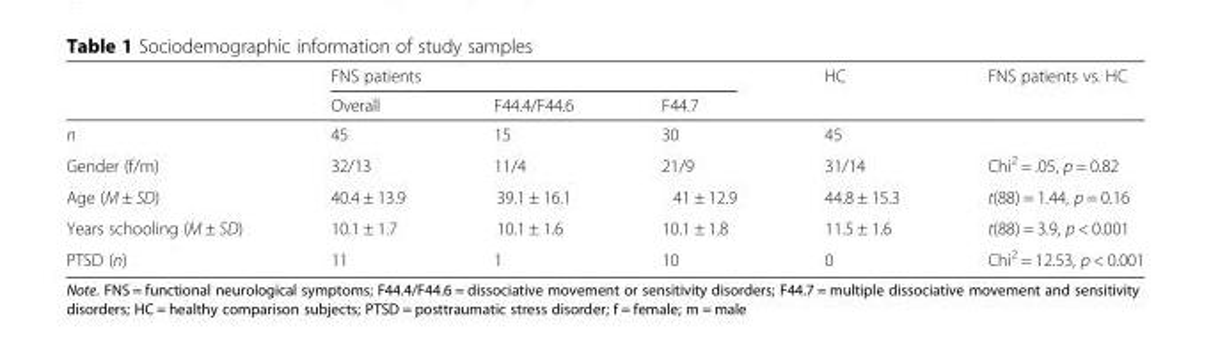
<table><thead><tr><td rowspan="2"></td><td colspan="3">FNS patients</td><td rowspan="2">HC</td><td rowspan="2">FNS patients vs. HC</td></tr><tr><td>Overall</td><td>F44.4/F44.6</td><td>F44.7</td></tr></thead><tbody><tr><td>n</td><td>45</td><td>15</td><td>30</td><td>45</td><td></td></tr><tr><td>Gender (f/m)</td><td>32/13</td><td>11/4</td><td>21/9</td><td>31/14</td><td>Chi<sup>2</sup> = .05, p = 0.82</td></tr><tr><td>Age (M ± SD)</td><td>40.4 ± 13.9</td><td>39.1 ± 16.1</td><td>41 ± 12.9</td><td>44.8 ± 15.3</td><td>t(88) = 1.44, p = 0.16</td></tr><tr><td>Years schooling (M ± SD)</td><td>10.1 ± 1.7</td><td>10.1 ± 1.6</td><td>10.1 ± 1.8</td><td>11.5 ± 1.6</td><td>t(88) = 3.9, p &lt; 0.001</td></tr><tr><td>PTSD (n)</td><td>11</td><td>1</td><td>10</td><td>0</td><td>Chi<sup>2</sup> = 12.53, p &lt; 0.001</td></tr></tbody></table>